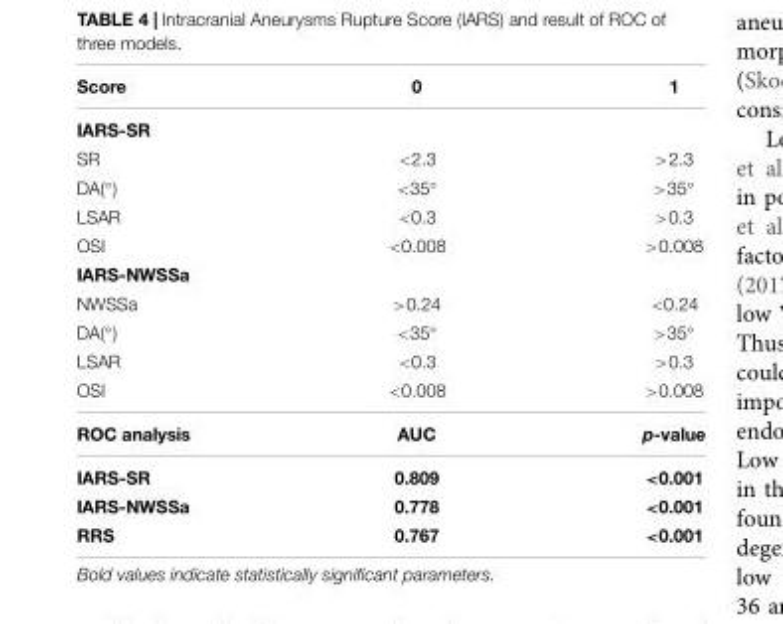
<table><thead><tr><td>Score</td><td>0</td><td>1</td></tr></thead><tbody><tr><td colspan="3">IARS-SR</td></tr><tr><td>SR</td><td>&lt;2.3</td><td>&gt;2.3</td></tr><tr><td>DA(◦)</td><td>&lt;35◦</td><td>&gt;35◦</td></tr><tr><td>LSAR</td><td>&lt;0.3</td><td>&gt;0.3</td></tr><tr><td>OSI</td><td>&lt;0.008</td><td>&gt;0.008</td></tr><tr><td colspan="3">IARS-NWSSa</td></tr><tr><td>NWSSa</td><td>&gt;0.24</td><td>&lt;0.24</td></tr><tr><td>DA(◦)</td><td>&lt;35◦</td><td>&gt;35◦</td></tr><tr><td>LSAR</td><td>&lt;0.3</td><td>&gt;0.3</td></tr><tr><td>OSI</td><td>&lt;0.008</td><td>&gt;0.008</td></tr><tr><td>ROC analysis</td><td>AUC</td><td>p-value</td></tr><tr><td>IARS-SR</td><td>0.809</td><td>&lt;0.001</td></tr><tr><td>IARS-NWSSa</td><td>0.778</td><td>&lt;0.001</td></tr><tr><td>RRS</td><td>0.767</td><td>&lt;0.001</td></tr></tbody></table>